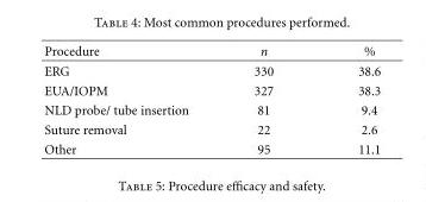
<table><thead><tr><td>Procedure</td><td>n</td><td>%</td></tr></thead><tbody><tr><td>ERG</td><td>330</td><td>38.6</td></tr><tr><td>EUA/IOPM</td><td>327</td><td>38.3</td></tr><tr><td>NLD probe/ tube insertion</td><td>81</td><td>9.4</td></tr><tr><td>Suture removal</td><td>22</td><td>2.6</td></tr><tr><td>Other</td><td>95</td><td>11.1</td></tr></tbody></table>